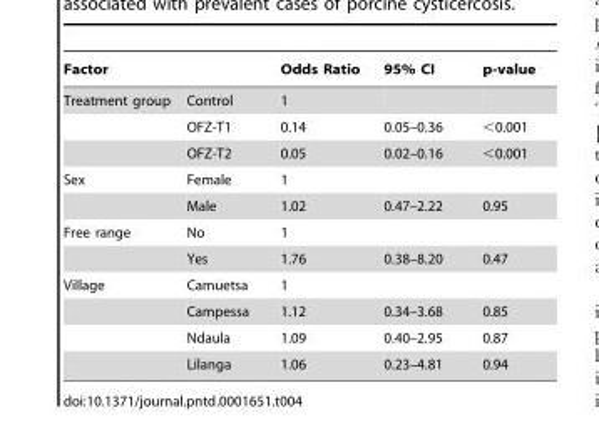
<table><thead><tr><td>Factor</td><td></td><td>Odds Ratio</td><td>95% CI</td><td>p-value</td></tr></thead><tbody><tr><td rowspan="3">Treatment group</td><td>Control</td><td>1</td><td></td><td></td></tr><tr><td>OFZ-T1</td><td>0.14</td><td>0.05–0.36</td><td>&lt;0.001</td></tr><tr><td>OFZ-T2</td><td>0.05</td><td>0.02–0.16</td><td>&lt;0.001</td></tr><tr><td rowspan="2">Sex</td><td>Female</td><td>1</td><td></td><td></td></tr><tr><td>Male</td><td>1.02</td><td>0.47–2.22</td><td>0.95</td></tr><tr><td rowspan="2">Free range</td><td>No</td><td>1</td><td></td><td></td></tr><tr><td>Yes</td><td>1.76</td><td>0.38–8.20</td><td>0.47</td></tr><tr><td rowspan="4">Village</td><td>Camuetsa</td><td>1</td><td></td><td></td></tr><tr><td>Campessa</td><td>1.12</td><td>0.34–3.68</td><td>0.85</td></tr><tr><td>Ndaula</td><td>1.09</td><td>0.40–2.95</td><td>0.87</td></tr><tr><td>Lilanga</td><td>1.06</td><td>0.23–4.81</td><td>0.94</td></tr></tbody></table>